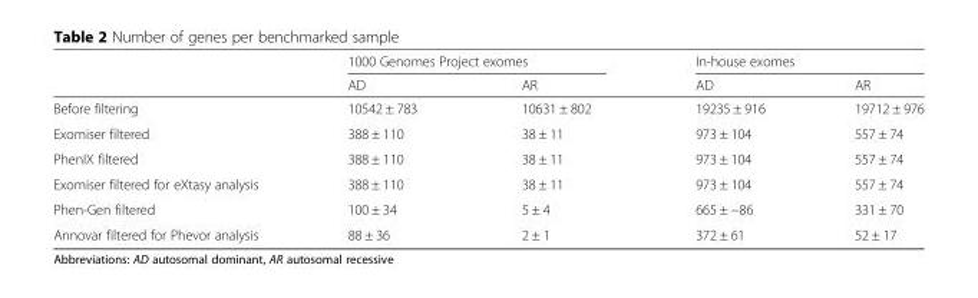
<table><thead><tr><td rowspan="2"></td><td colspan="2">1000 Genomes Project exomes</td><td colspan="2">In-house exomes</td></tr><tr><td>AD</td><td>AR</td><td>AD</td><td>AR</td></tr></thead><tbody><tr><td>Before filtering</td><td>10542 ± 783</td><td>10631 ± 802</td><td>19235 ± 916</td><td>19712 ± 976</td></tr><tr><td>Exomiser filtered</td><td>388 ± 110</td><td>38 ± 11</td><td>973 ± 104</td><td>557 ± 74</td></tr><tr><td>PhenIX filtered</td><td>388 ± 110</td><td>38 ± 11</td><td>973 ± 104</td><td>557 ± 74</td></tr><tr><td>Exomiser filtered for eXtasy analysis</td><td>388 ± 110</td><td>38 ± 11</td><td>973 ± 104</td><td>557 ± 74</td></tr><tr><td>Phen-Gen filtered</td><td>100 ± 34</td><td>5 ± 4</td><td>665 ± −86</td><td>331 ± 70</td></tr><tr><td>Annovar filtered for Phevor analysis</td><td>88 ± 36</td><td>2 ± 1</td><td>372 ± 61</td><td>52 ± 17</td></tr></tbody></table>